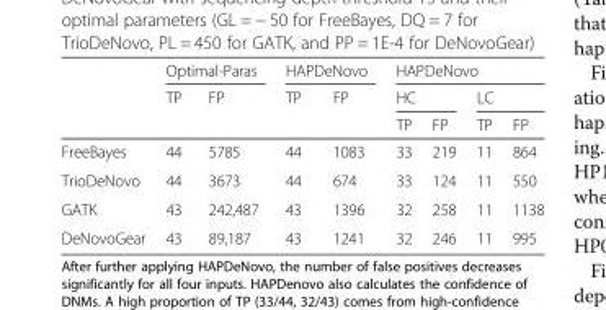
<table><thead><tr><td rowspan="3"></td><td colspan="2">Optimal-Paras</td><td colspan="2">HAPDeNovo</td><td colspan="4">HAPDeNovo</td></tr><tr><td rowspan="2">TP</td><td rowspan="2">FP</td><td rowspan="2">TP</td><td rowspan="2">FP</td><td colspan="2">HC</td><td colspan="2">LC</td></tr><tr><td>TP</td><td>FP</td><td>TP</td><td>FP</td></tr></thead><tbody><tr><td>FreeBayes</td><td>44</td><td>5785</td><td>44</td><td>1083</td><td>33</td><td>219</td><td>11</td><td>864</td></tr><tr><td>TrioDeNovo</td><td>44</td><td>3673</td><td>44</td><td>674</td><td>33</td><td>124</td><td>11</td><td>550</td></tr><tr><td>GATK</td><td>43</td><td>242,487</td><td>43</td><td>1396</td><td>32</td><td>258</td><td>11</td><td>1138</td></tr><tr><td>DeNovoGear</td><td>43</td><td>89,187</td><td>43</td><td>1241</td><td>32</td><td>246</td><td>11</td><td>995</td></tr></tbody></table>